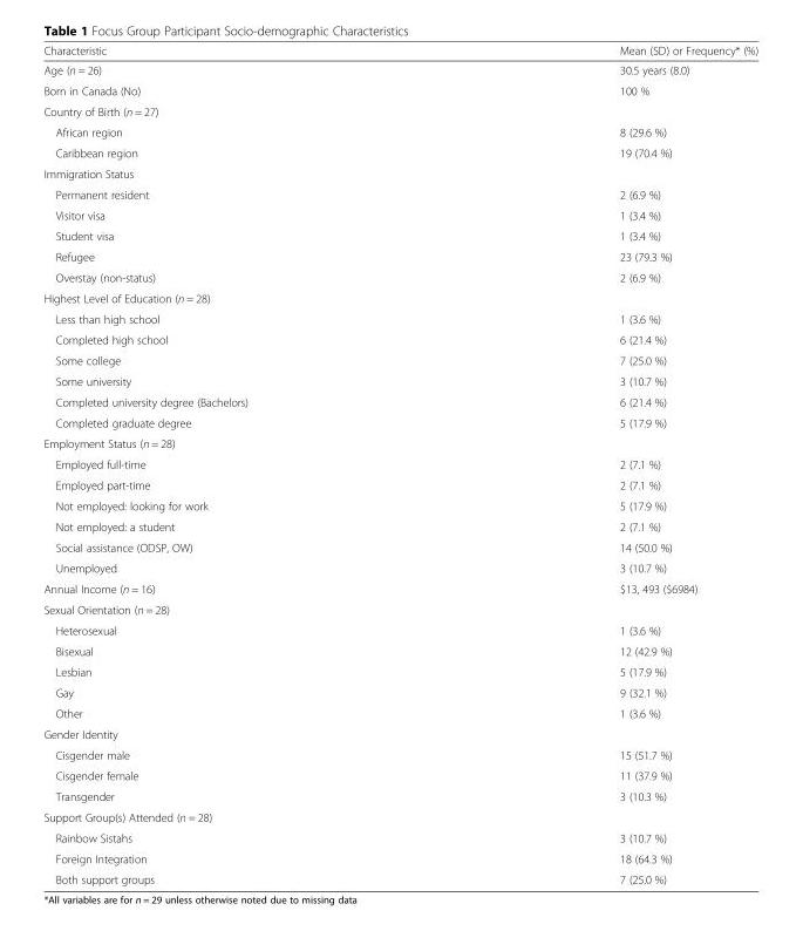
<table><thead><tr><td>Characteristic</td><td>Mean (SD) or Frequency* (%)</td></tr></thead><tbody><tr><td>Age (n = 26)</td><td>30.5 years (8.0)</td></tr><tr><td>Born in Canada (No)</td><td>100 %</td></tr><tr><td colspan="2">Country of Birth (n = 27)</td></tr><tr><td>African region</td><td>8 (29.6 %)</td></tr><tr><td>Caribbean region</td><td>19 (70.4 %)</td></tr><tr><td colspan="2">Immigration Status</td></tr><tr><td>Permanent resident</td><td>2 (6.9 %)</td></tr><tr><td>Visitor visa</td><td>1 (3.4 %)</td></tr><tr><td>Student visa</td><td>1 (3.4 %)</td></tr><tr><td>Refugee</td><td>23 (79.3 %)</td></tr><tr><td>Overstay (non-status)</td><td>2 (6.9 %)</td></tr><tr><td colspan="2">Highest Level of Education (n = 28)</td></tr><tr><td>Less than high school</td><td>1 (3.6 %)</td></tr><tr><td>Completed high school</td><td>6 (21.4 %)</td></tr><tr><td>Some college</td><td>7 (25.0 %)</td></tr><tr><td>Some university</td><td>3 (10.7 %)</td></tr><tr><td>Completed university degree (Bachelors)</td><td>6 (21.4 %)</td></tr><tr><td>Completed graduate degree</td><td>5 (17.9 %)</td></tr><tr><td colspan="2">Employment Status (n = 28)</td></tr><tr><td>Employed full-time</td><td>2 (7.1 %)</td></tr><tr><td>Employed part-time</td><td>2 (7.1 %)</td></tr><tr><td>Not employed: looking for work</td><td>5 (17.9 %)</td></tr><tr><td>Not employed: a student</td><td>2 (7.1 %)</td></tr><tr><td>Social assistance (ODSP, OW)</td><td>14 (50.0 %)</td></tr><tr><td>Unemployed</td><td>3 (10.7 %)</td></tr><tr><td>Annual Income (n = 16)</td><td>$13, 493 ($6984)</td></tr><tr><td colspan="2">Sexual Orientation (n = 28)</td></tr><tr><td>Heterosexual</td><td>1 (3.6 %)</td></tr><tr><td>Bisexual</td><td>12 (42.9 %)</td></tr><tr><td>Lesbian</td><td>5 (17.9 %)</td></tr><tr><td>Gay</td><td>9 (32.1 %)</td></tr><tr><td>Other</td><td>1 (3.6 %)</td></tr><tr><td colspan="2">Gender Identity</td></tr><tr><td>Cisgender male</td><td>15 (51.7 %)</td></tr><tr><td>Cisgender female</td><td>11 (37.9 %)</td></tr><tr><td>Transgender</td><td>3 (10.3 %)</td></tr><tr><td colspan="2">Support Group(s) Attended (n = 28)</td></tr><tr><td>Rainbow Sistahs</td><td>3 (10.7 %)</td></tr><tr><td>Foreign Integration</td><td>18 (64.3 %)</td></tr><tr><td>Both support groups</td><td>7 (25.0 %)</td></tr></tbody></table>